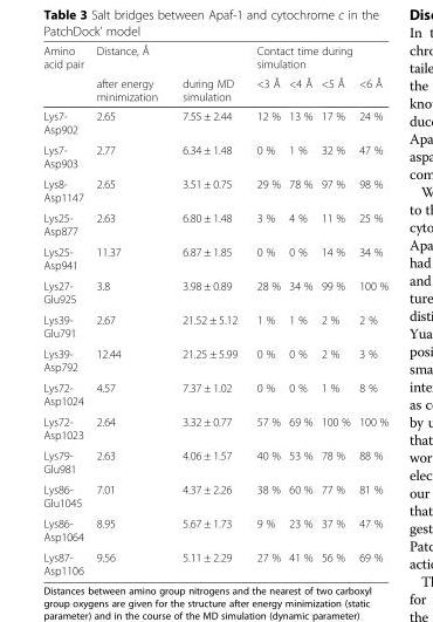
<table><thead><tr><td rowspan="2">Amino acid pair</td><td colspan="2">Distance, Å</td><td colspan="4">Contact time during simulation</td></tr><tr><td>after energy minimization</td><td>during MD simulation</td><td>&lt;3 Å</td><td>&lt;4 Å</td><td>&lt;5 Å</td><td>&lt;6 Å</td></tr></thead><tbody><tr><td>Lys7- Asp902</td><td>2.65</td><td>7.55 ± 2.44</td><td>12 %</td><td>13 %</td><td>17 %</td><td>24 %</td></tr><tr><td>Lys7- Asp903</td><td>2.77</td><td>6.34 ± 1.48</td><td>0 %</td><td>1 %</td><td>32 %</td><td>47 %</td></tr><tr><td>Lys8- Asp1147</td><td>2.65</td><td>3.51 ± 0.75</td><td>29 %</td><td>78 %</td><td>97 %</td><td>98 %</td></tr><tr><td>Lys25- Asp877</td><td>2.63</td><td>6.80 ± 1.48</td><td>3 %</td><td>4 %</td><td>11 %</td><td>25 %</td></tr><tr><td>Lys25- Asp941</td><td>11.37</td><td>6.87 ± 1.85</td><td>0 %</td><td>0 %</td><td>14 %</td><td>34 %</td></tr><tr><td>Lys27- Glu925</td><td>3.8</td><td>3.98 ± 0.89</td><td>28 %</td><td>34 %</td><td>99 %</td><td>100 %</td></tr><tr><td>Lys39- Glu791</td><td>2.67</td><td>21.52 ± 5.12</td><td>1 %</td><td>1 %</td><td>2 %</td><td>2 %</td></tr><tr><td>Lys39- Asp792</td><td>12.44</td><td>21.25 ± 5.99</td><td>0 %</td><td>0 %</td><td>2 %</td><td>3 %</td></tr><tr><td>Lys72- Asp1024</td><td>4.57</td><td>7.37 ± 1.02</td><td>0 %</td><td>0 %</td><td>1 %</td><td>8 %</td></tr><tr><td>Lys72- Asp1023</td><td>2.64</td><td>3.32 ± 0.77</td><td>57 %</td><td>69 %</td><td>100 %</td><td>100 %</td></tr><tr><td>Lys79- Glu981</td><td>2.63</td><td>4.06 ± 1.57</td><td>40 %</td><td>53 %</td><td>78 %</td><td>88 %</td></tr><tr><td>Lys86- Glu1045</td><td>7.01</td><td>4.37 ± 2.26</td><td>38 %</td><td>60 %</td><td>77 %</td><td>81 %</td></tr><tr><td>Lys86- Asp1064</td><td>8.95</td><td>5.67 ± 1.73</td><td>9 %</td><td>23 %</td><td>37 %</td><td>47 %</td></tr><tr><td>Lys87- Asp1106</td><td>9.56</td><td>5.11 ± 2.29</td><td>27 %</td><td>41 %</td><td>56 %</td><td>69 %</td></tr></tbody></table>